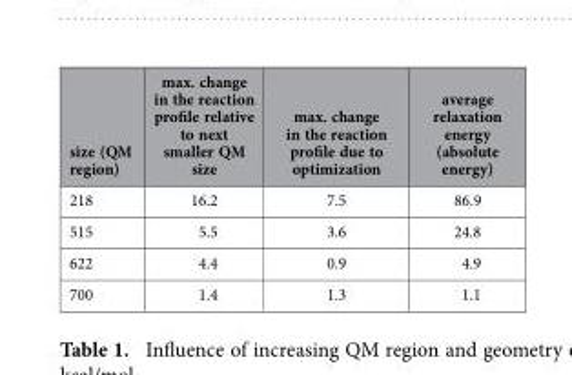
<table><thead><tr><td>size (QM region)</td><td>max. change in the reaction profile relative to next smaller QM size</td><td>max. change in the reaction profile due to optimization</td><td>average relaxation energy (absolute energy)</td></tr></thead><tbody><tr><td>218</td><td>16.2</td><td>7.5</td><td>86.9</td></tr><tr><td>515</td><td>5.5</td><td>3.6</td><td>24.8</td></tr><tr><td>622</td><td>4.4</td><td>0.9</td><td>4.9</td></tr><tr><td>700</td><td>1.4</td><td>1.3</td><td>1.1</td></tr></tbody></table>